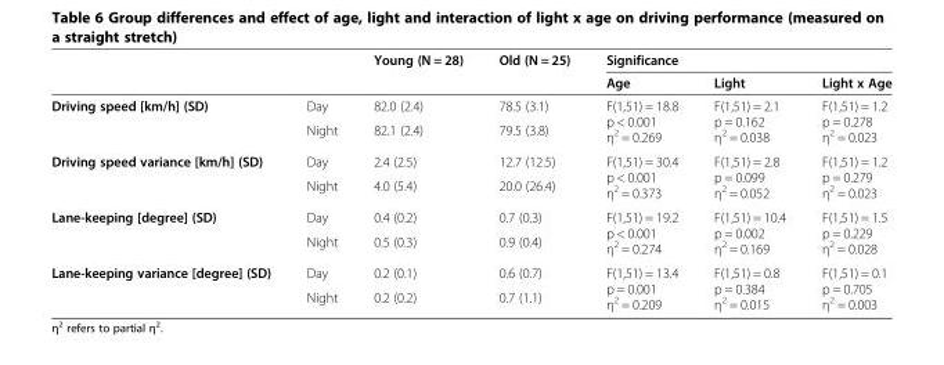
<table><thead><tr><td rowspan="2"></td><td rowspan="2"></td><td rowspan="2">Young (N = 28)</td><td rowspan="2">Old (N = 25)</td><td colspan="3">Significance</td></tr><tr><td>Age</td><td>Light</td><td>Light x Age</td></tr></thead><tbody><tr><td rowspan="2">Driving speed [km/h] (SD)</td><td>Day</td><td>82.0 (2.4)</td><td>78.5 (3.1)</td><td rowspan="2">F(1,51) = 18.8 p &lt; 0.001 η<sup>2</sup> = 0.269</td><td rowspan="2">F(1,51) = 2.1 p = 0.162 η<sup>2</sup> = 0.038</td><td rowspan="2">F(1,51) = 1.2 p = 0.278 η<sup>2</sup> = 0.023</td></tr><tr><td>Night</td><td>82.1 (2.4)</td><td>79.5 (3.8)</td></tr><tr><td rowspan="2">Driving speed variance [km/h] (SD)</td><td>Day</td><td>2.4 (2.5)</td><td>12.7 (12.5)</td><td rowspan="2">F(1,51) = 30.4 p &lt; 0.001 η<sup>2</sup> = 0.373</td><td rowspan="2">F(1,51) = 2.8 p = 0.099 η<sup>2</sup> = 0.052</td><td rowspan="2">F(1,51) = 1.2 p = 0.279 η<sup>2</sup> = 0.023</td></tr><tr><td>Night</td><td>4.0 (5.4)</td><td>20.0 (26.4)</td></tr><tr><td rowspan="2">Lane-keeping [degree] (SD)</td><td>Day</td><td>0.4 (0.2)</td><td>0.7 (0.3)</td><td rowspan="2">F(1,51) = 19.2 p &lt; 0.001 η<sup>2</sup> = 0.274</td><td rowspan="2">F(1,51) = 10.4 p = 0.002 η<sup>2</sup> = 0.169</td><td rowspan="2">F(1,51) = 1.5 p = 0.229 η<sup>2</sup> = 0.028</td></tr><tr><td>Night</td><td>0.5 (0.3)</td><td>0.9 (0.4)</td></tr><tr><td rowspan="2">Lane-keeping variance [degree] (SD)</td><td>Day</td><td>0.2 (0.1)</td><td>0.6 (0.7)</td><td rowspan="2">F(1,51) = 13.4 p = 0.001 η<sup>2</sup> = 0.209</td><td rowspan="2">F(1,51) = 0.8 p = 0.384 η<sup>2</sup> = 0.015</td><td rowspan="2">F(1,51) = 0.1 p = 0.705 η<sup>2</sup> = 0.003</td></tr><tr><td>Night</td><td>0.2 (0.2)</td><td>0.7 (1.1)</td></tr></tbody></table>